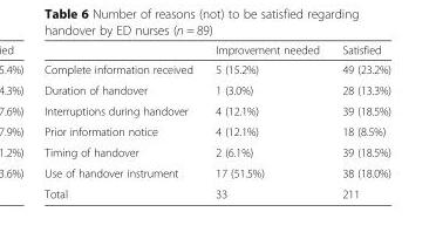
<table><thead><tr><td></td><td>Improvement needed</td><td>Satisfied</td></tr></thead><tbody><tr><td>Complete information received</td><td>5 (15.2%)</td><td>49 (23.2%)</td></tr><tr><td>Duration of handover</td><td>1 (3.0%)</td><td>28 (13.3%)</td></tr><tr><td>Interruptions during handover</td><td>4 (12.1%)</td><td>39 (18.5%)</td></tr><tr><td>Prior information notice</td><td>4 (12.1%)</td><td>18 (8.5%)</td></tr><tr><td>Timing of handover</td><td>2 (6.1%)</td><td>39 (18.5%)</td></tr><tr><td>Use of handover instrument</td><td>17 (51.5%)</td><td>38 (18.0%)</td></tr><tr><td>Total</td><td>33</td><td>211</td></tr></tbody></table>